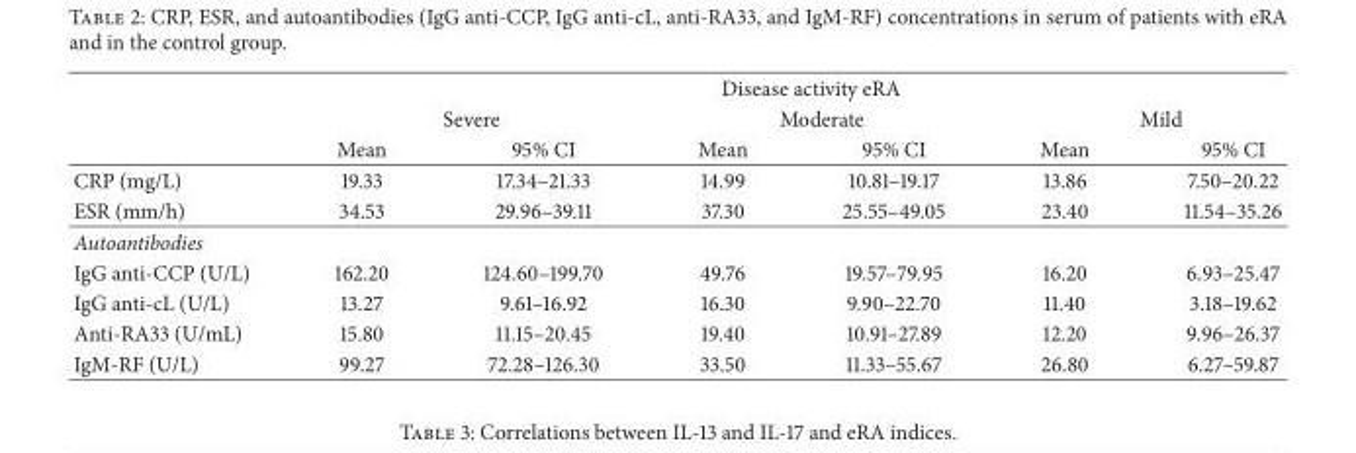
<table><thead><tr><td rowspan="3"></td><td colspan="6">Disease activity eRA</td></tr><tr><td colspan="2">Severe</td><td colspan="2">Moderate</td><td colspan="2">Mild</td></tr><tr><td>Mean</td><td>95% CI</td><td>Mean</td><td>95% CI</td><td>Mean</td><td>95% CI</td></tr></thead><tbody><tr><td>CRP (mg/L)</td><td>19.33</td><td>17.34–21.33</td><td>14.99</td><td>10.81–19.17</td><td>13.86</td><td>7.50–20.22</td></tr><tr><td>ESR (mm/h)</td><td>34.53</td><td>29.96–39.11</td><td>37.30</td><td>25.55–49.05</td><td>23.40</td><td>11.54–35.26</td></tr><tr><td colspan="7">Autoantibodies</td></tr><tr><td>IgG anti-CCP (U/L)</td><td>162.20</td><td>124.60–199.70</td><td>49.76</td><td>19.57–79.95</td><td>16.20</td><td>6.93–25.47</td></tr><tr><td>IgG anti-cL (U/L)</td><td>13.27</td><td>9.61–16.92</td><td>16.30</td><td>9.90–22.70</td><td>11.40</td><td>3.18–19.62</td></tr><tr><td>Anti-RA33 (U/mL)</td><td>15.80</td><td>11.15–20.45</td><td>19.40</td><td>10.91–27.89</td><td>12.20</td><td>9.96–26.37</td></tr><tr><td>IgM-RF (U/L)</td><td>99.27</td><td>72.28–126.30</td><td>33.50</td><td>11.33–55.67</td><td>26.80</td><td>6.27–59.87</td></tr></tbody></table>